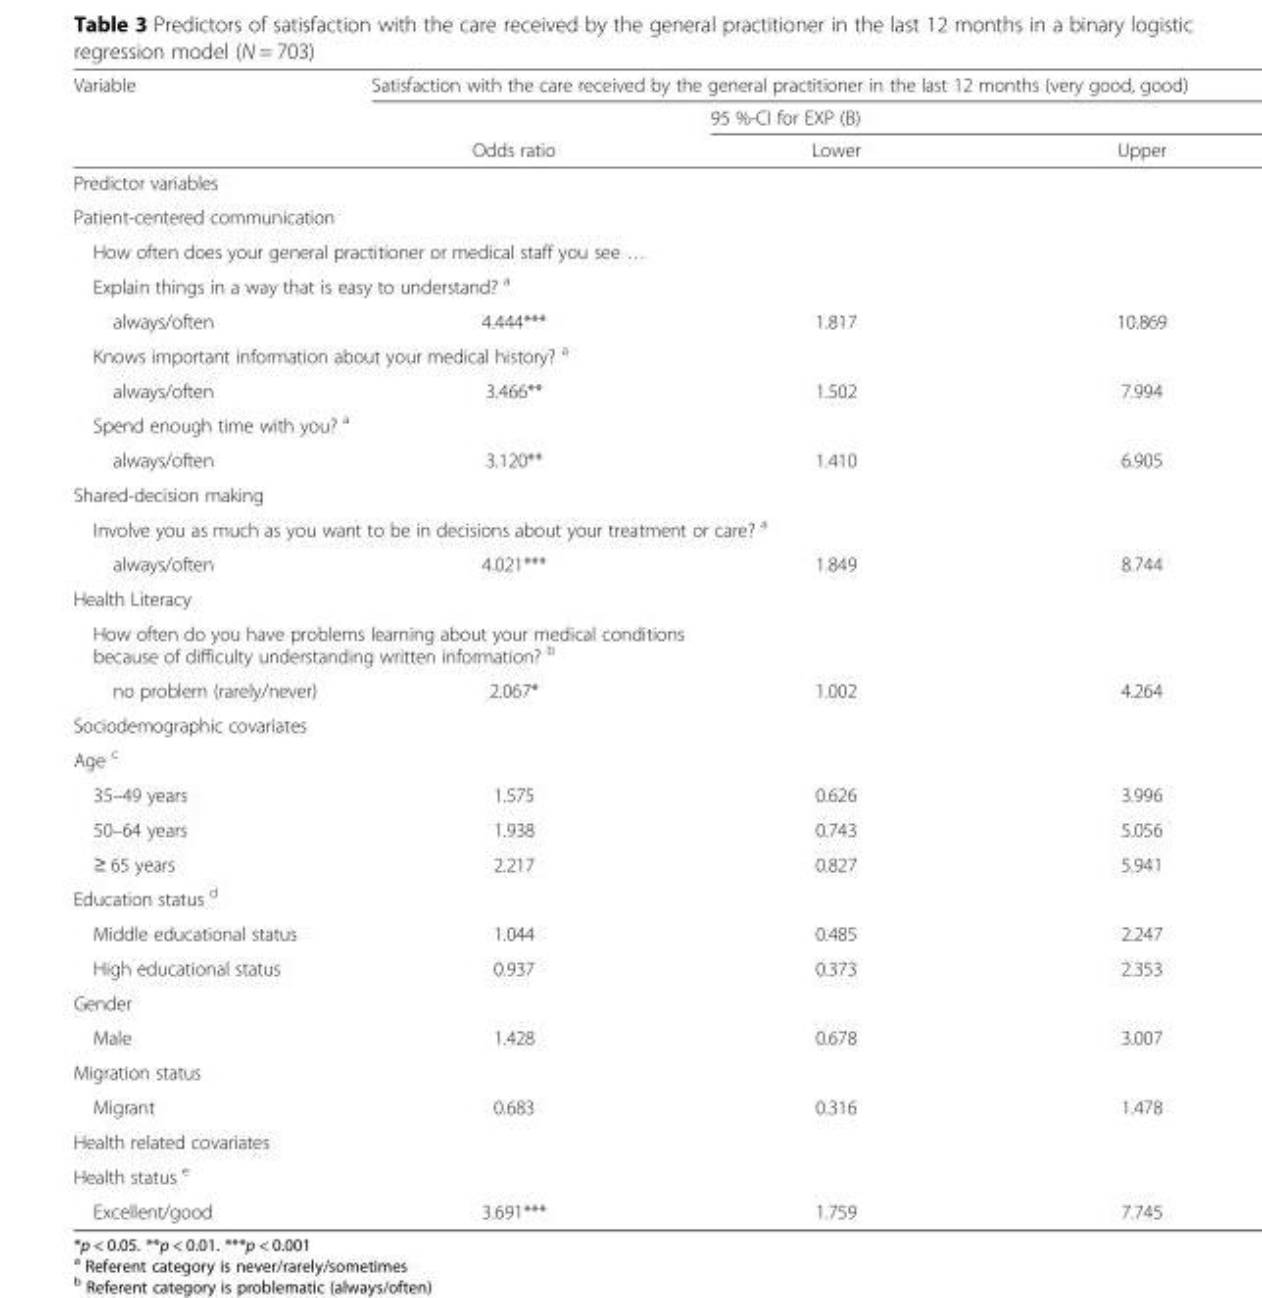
<table><thead><tr><td rowspan="3">Variable</td><td colspan="3">Satisfaction with the care received by the general practitioner in the last 12 months (very good, good)</td></tr><tr><td rowspan="2">Odds ratio</td><td colspan="2">95 %-CI for EXP (B)</td></tr><tr><td>Lower</td><td>Upper</td></tr></thead><tbody><tr><td colspan="4">Predictor variables</td></tr><tr><td colspan="4">Patient-centered communication</td></tr><tr><td colspan="4">How often does your general practitioner or medical staff you see …</td></tr><tr><td colspan="4">Explain things in a way that is easy to understand? <sup>a</sup></td></tr><tr><td>always/often</td><td>4.444***</td><td>1.817</td><td>10.869</td></tr><tr><td colspan="4">Knows important information about your medical history? <sup>a</sup></td></tr><tr><td>always/often</td><td>3.466**</td><td>1.502</td><td>7.994</td></tr><tr><td colspan="4">Spend enough time with you? <sup>a</sup></td></tr><tr><td>always/often</td><td>3.120**</td><td>1.410</td><td>6.905</td></tr><tr><td colspan="4">Shared-decision making</td></tr><tr><td colspan="4">Involve you as much as you want to be in decisions about your treatment or care? <sup>a</sup></td></tr><tr><td>always/often</td><td>4.021***</td><td>1.849</td><td>8.744</td></tr><tr><td colspan="4">Health Literacy</td></tr><tr><td colspan="4">How often do you have problems learning about your medical conditions because of difficulty understanding written information? <sup>b</sup></td></tr><tr><td>no problem (rarely/never)</td><td>2.067*</td><td>1.002</td><td>4.264</td></tr><tr><td colspan="4">Sociodemographic covariates</td></tr><tr><td colspan="4">Age <sup>c</sup></td></tr><tr><td>35–49 years</td><td>1.575</td><td>0.626</td><td>3.996</td></tr><tr><td>50–64 years</td><td>1.938</td><td>0.743</td><td>5.056</td></tr><tr><td>≥ 65 years</td><td>2.217</td><td>0.827</td><td>5.941</td></tr><tr><td colspan="4">Education status <sup>d</sup></td></tr><tr><td>Middle educational status</td><td>1.044</td><td>0.485</td><td>2.247</td></tr><tr><td>High educational status</td><td>0.937</td><td>0.373</td><td>2.353</td></tr><tr><td colspan="4">Gender</td></tr><tr><td>Male</td><td>1.428</td><td>0.678</td><td>3.007</td></tr><tr><td colspan="4">Migration status</td></tr><tr><td>Migrant</td><td>0.683</td><td>0.316</td><td>1.478</td></tr><tr><td colspan="4">Health related covariates</td></tr><tr><td colspan="4">Health status <sup>e</sup></td></tr><tr><td>Excellent/good</td><td>3.691***</td><td>1.759</td><td>7.745</td></tr></tbody></table>